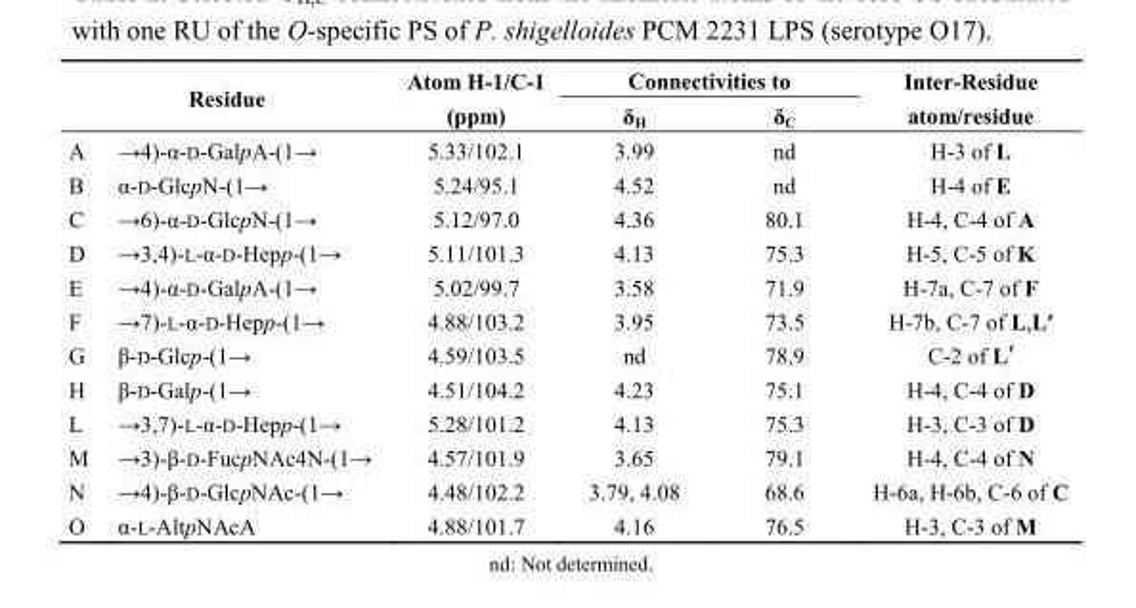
<table><thead><tr><td rowspan="2" colspan="2">Residue</td><td rowspan="3">Atom H-1/C-1 (ppm) 5.33/102.1</td><td colspan="2">Connectivities to</td><td rowspan="3">Inter-Residue atom/residue H-3 of L</td></tr><tr><td rowspan="2">δ<sub>H</sub> 3.99</td><td rowspan="2">δ<sub>C</sub> nd</td></tr><tr><td>A</td><td>→4)-α-D-GalpA-(1→</td></tr></thead><tbody><tr><td>B</td><td>α-D-GlcpN-(1→</td><td>5.24/95.1</td><td>4.52</td><td>nd</td><td>H-4 of E</td></tr><tr><td>C</td><td>→6)-α-D-GlcpN-(1→</td><td>5.12/97.0</td><td>4.36</td><td>80.1</td><td>H-4, C-4 of A</td></tr><tr><td>D</td><td>→3,4)-L-α-D-Hepp-(1→</td><td>5.11/101.3</td><td>4.13</td><td>75.3</td><td>H-5, C-5 of K</td></tr><tr><td>E</td><td>→4)-α-D-GalpA-(1→</td><td>5.02/99.7</td><td>3.58</td><td>71.9</td><td>H-7a, C-7 of F</td></tr><tr><td>F</td><td>→7)-L-α-D-Hepp-(1→</td><td>4.88/103.2</td><td>3.95</td><td>73.5</td><td>H-7b, C-7 of L,L′</td></tr><tr><td>G</td><td>β-D-Glcp-(1→</td><td>4.59/103.5</td><td>nd</td><td>78.9</td><td>C-2 of L′</td></tr><tr><td>H</td><td>β-D-Galp-(1→</td><td>4.51/104.2</td><td>4.23</td><td>75.1</td><td>H-4, C-4 of D</td></tr><tr><td>L</td><td>→3,7)-L-α-D-Hepp-(1→</td><td>5.28/101.2</td><td>4.13</td><td>75.3</td><td>H-3, C-3 of D</td></tr><tr><td>M</td><td>→3)-β-D-FucpNAc4N-(1→</td><td>4.57/101.9</td><td>3.65</td><td>79.1</td><td>H-4, C-4 of N</td></tr><tr><td>N</td><td>→4)-β-D-GlcpNAc-(1→</td><td>4.48/102.2</td><td>3.79, 4.08</td><td>68.6</td><td>H-6a, H-6b, C-6 of C</td></tr><tr><td>O</td><td>α-L-AltpNAcA</td><td>4.88/101.7</td><td>4.16</td><td>76.5</td><td>H-3, C-3 of M</td></tr></tbody></table>